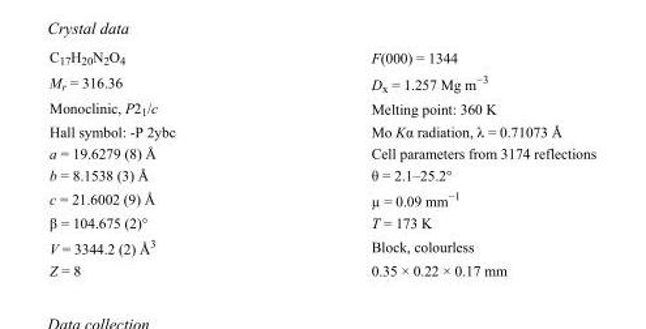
<table><tbody><tr><td>C<sub>17</sub>H<sub>20</sub>N<sub>2</sub>O<sub>4</sub></td><td>F(000) = 1344</td></tr><tr><td>M<sub>r</sub> = 316.36</td><td>D<sub>x</sub> = 1.257 Mg m<sup>−3</sup></td></tr><tr><td>Monoclinic, P2<sub>1</sub>/c</td><td>Melting point: 360 K</td></tr><tr><td>Hall symbol: -P 2ybc</td><td>Mo Kα radiation, λ = 0.71073 Å</td></tr><tr><td>a = 19.6279 (8) Å</td><td>Cell parameters from 3174 reflections</td></tr><tr><td>b = 8.1538 (3) Å</td><td>θ = 2.1–25.2°</td></tr><tr><td>c = 21.6002 (9) Å</td><td>µ = 0.09 mm<sup>−1</sup></td></tr><tr><td>β = 104.675 (2)°</td><td>T = 173 K</td></tr><tr><td>V = 3344.2 (2) Å<sup>3</sup></td><td>Block, colourless</td></tr><tr><td>Z = 8</td><td>0.35 × 0.22 × 0.17 mm</td></tr></tbody></table>